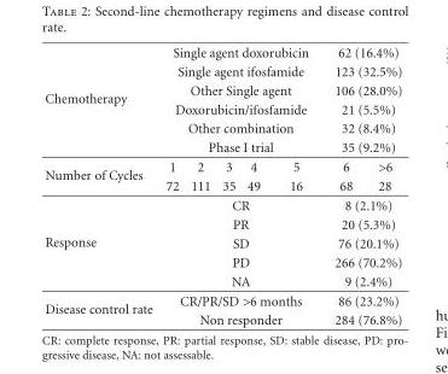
<table><tbody><tr><td rowspan="6">Chemotherapy</td><td colspan="5">Single agent doxorubicin</td><td colspan="2">62 (16.4%)</td></tr><tr><td colspan="5">Single agent ifosfamide</td><td colspan="2">123 (32.5%)</td></tr><tr><td colspan="5">Other Single agent</td><td colspan="2">106 (28.0%)</td></tr><tr><td colspan="5">Doxorubicin/ifosfamide</td><td colspan="2">21 (5.5%)</td></tr><tr><td colspan="5">Other combination</td><td colspan="2">32 (8.4%)</td></tr><tr><td colspan="5">Phase I trial</td><td colspan="2">35 (9.2%)</td></tr><tr><td rowspan="2">Number of Cycles</td><td>1</td><td>2</td><td>3</td><td>4</td><td>5</td><td>6</td><td>&gt;6</td></tr><tr><td>72</td><td>111</td><td>35</td><td>49</td><td>16</td><td>68</td><td>28</td></tr><tr><td rowspan="5">Response</td><td colspan="5">CR</td><td colspan="2">8 (2.1%)</td></tr><tr><td colspan="5">PR</td><td colspan="2">20 (5.3%)</td></tr><tr><td colspan="5">SD</td><td colspan="2">76 (20.1%)</td></tr><tr><td colspan="5">PD</td><td colspan="2">266 (70.2%)</td></tr><tr><td colspan="5">NA</td><td colspan="2">9 (2.4%)</td></tr><tr><td rowspan="2">Disease control rate</td><td colspan="5">CR/PR/SD &gt;6 months</td><td colspan="2">86 (23.2%)</td></tr><tr><td colspan="5">Non responder</td><td colspan="2">284 (76.8%)</td></tr></tbody></table>